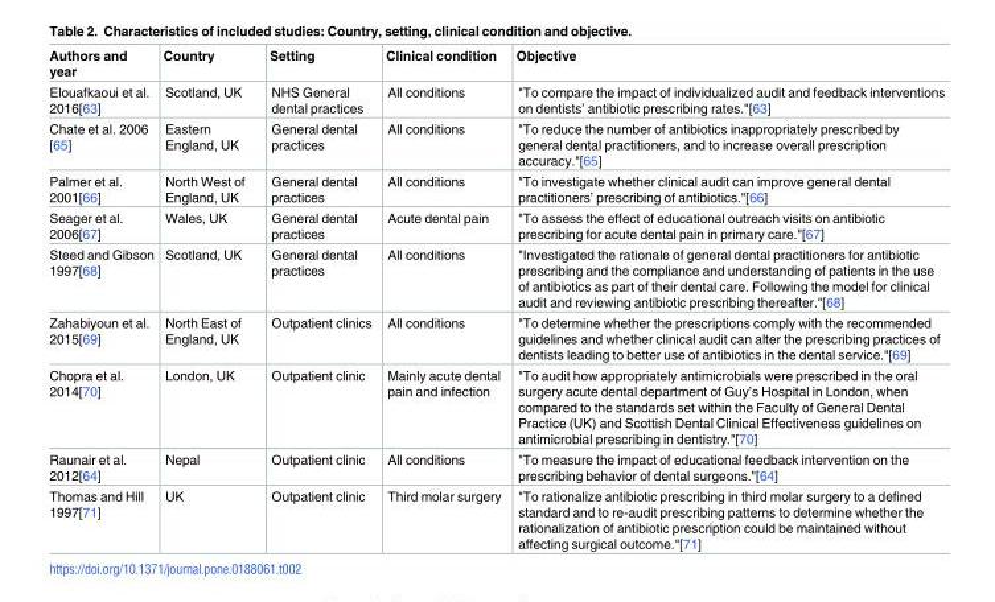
<table><thead><tr><td>Authors and year</td><td>Country</td><td>Setting</td><td>Clinical condition</td><td>Objective</td></tr></thead><tbody><tr><td>Elouafkaoui et al. 2016[63]</td><td>Scotland, UK</td><td>NHS General dental practices</td><td>All conditions</td><td>&quot;To compare the impact of individualized audit and feedback interventions on dentists’ antibiotic prescribing rates.&quot;[63]</td></tr><tr><td>Chate et al. 2006 [65]</td><td>Eastern England, UK</td><td>General dental practices</td><td>All conditions</td><td>&quot;To reduce the number of antibiotics inappropriately prescribed by general dental practitioners, and to increase overall prescription accuracy.&quot;[65]</td></tr><tr><td>Palmer et al. 2001[66]</td><td>North West of England, UK</td><td>General dental practices</td><td>All conditions</td><td>&quot;To investigate whether clinical audit can improve general dental practitioners’ prescribing of antibiotics.&quot;[66]</td></tr><tr><td>Seager et al. 2006[67]</td><td>Wales, UK</td><td>General dental practices</td><td>Acute dental pain</td><td>&quot;To assess the effect of educational outreach visits on antibiotic prescribing for acute dental pain in primary care.&quot;[67]</td></tr><tr><td>Steed and Gibson 1997[68]</td><td>Scotland, UK</td><td>General dental practices</td><td>All conditions</td><td>&quot;Investigated the rationale of general dental practitioners for antibiotic prescribing and the compliance and understanding of patients in the use of antibiotics as part of their dental care. Following the model for clinical audit and reviewing antibiotic prescribing thereafter.&quot;[68]</td></tr><tr><td>Zahabiyoun et al. 2015[69]</td><td>North East of England, UK</td><td>Outpatient clinics</td><td>All conditions</td><td>&quot;To determine whether the prescriptions comply with the recommended guidelines and whether clinical audit can alter the prescribing practices of dentists leading to better use of antibiotics in the dental service.&quot;[69]</td></tr><tr><td>Chopra et al. 2014[70]</td><td>London, UK</td><td>Outpatient clinic</td><td>Mainly acute dental pain and infection</td><td>&quot;To audit how appropriately antimicrobials were prescribed in the oral surgery acute dental department of Guy’s Hospital in London, when compared to the standards set within the Faculty of General Dental Practice (UK) and Scottish Dental Clinical Effectiveness guidelines on antimicrobial prescribing in dentistry.&quot;[70]</td></tr><tr><td>Raunair et al. 2012[64]</td><td>Nepal</td><td>Outpatient clinic</td><td>All conditions</td><td>&quot;To measure the impact of educational feedback intervention on the prescribing behavior of dental surgeons.&quot;[64]</td></tr><tr><td>Thomas and Hill 1997[71]</td><td>UK</td><td>Outpatient clinic</td><td>Third molar surgery</td><td>&quot;To rationalize antibiotic prescribing in third molar surgery to a defined standard and to re-audit prescribing patterns to determine whether the rationalization of antibiotic prescription could be maintained without affecting surgical outcome.&quot;[71]</td></tr></tbody></table>